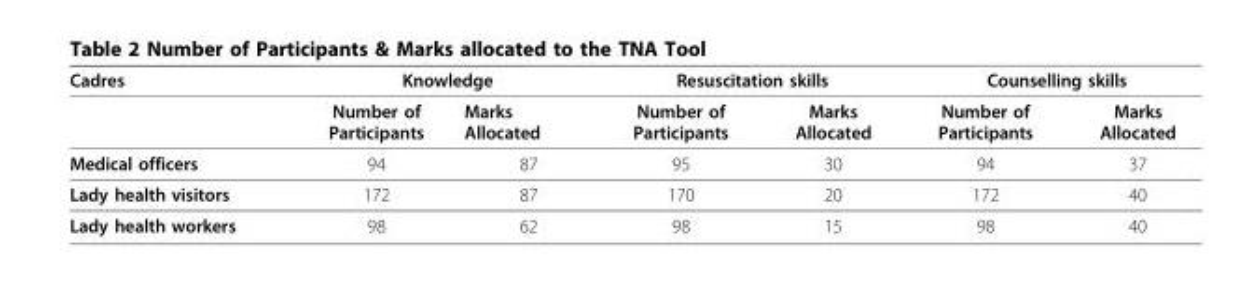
<table><thead><tr><td rowspan="2">Cadres</td><td colspan="2">Knowledge</td><td colspan="2">Resuscitation skills</td><td colspan="2">Counselling skills</td></tr><tr><td>Number of Participants</td><td>Marks Allocated</td><td>Number of Participants</td><td>Marks Allocated</td><td>Number of Participants</td><td>Marks Allocated</td></tr></thead><tbody><tr><td>Medical officers</td><td>94</td><td>87</td><td>95</td><td>30</td><td>94</td><td>37</td></tr><tr><td>Lady health visitors</td><td>172</td><td>87</td><td>170</td><td>20</td><td>172</td><td>40</td></tr><tr><td>Lady health workers</td><td>98</td><td>62</td><td>98</td><td>15</td><td>98</td><td>40</td></tr></tbody></table>